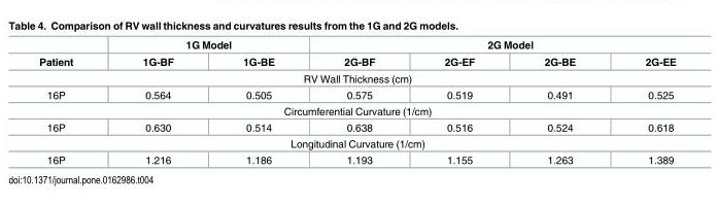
<table><thead><tr><td rowspan="2">Patient</td><td colspan="2">1G Model</td><td colspan="4">2G Model</td></tr><tr><td>1G-BF</td><td>1G-BE</td><td>2G-BF</td><td>2G-EF</td><td>2G-BE</td><td>2G-EE</td></tr></thead><tbody><tr><td colspan="7">RV Wall Thickness (cm)</td></tr><tr><td>16P</td><td>0.564</td><td>0.505</td><td>0.575</td><td>0.519</td><td>0.491</td><td>0.525</td></tr><tr><td colspan="7">Circumferential Curvature (1/cm)</td></tr><tr><td>16P</td><td>0.630</td><td>0.514</td><td>0.638</td><td>0.516</td><td>0.524</td><td>0.618</td></tr><tr><td colspan="7">Longitudinal Curvature (1/cm)</td></tr><tr><td>16P</td><td>1.216</td><td>1.186</td><td>1.193</td><td>1.155</td><td>1.263</td><td>1.389</td></tr></tbody></table>